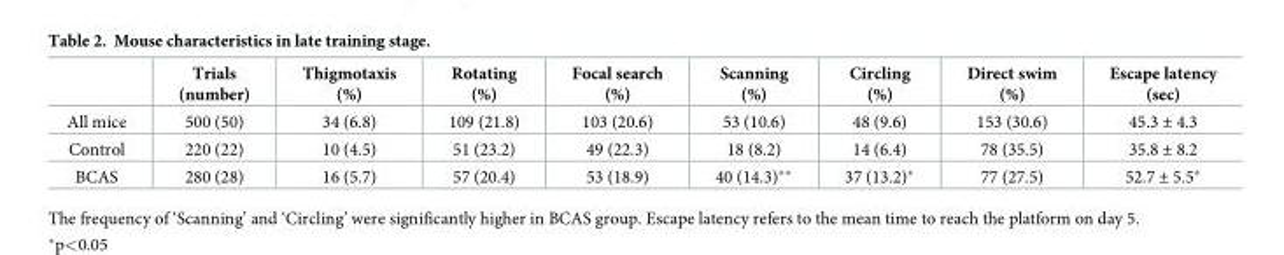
<table><thead><tr><td></td><td>Trials (number)</td><td>Thigmotaxis (%)</td><td>Rotating (%)</td><td>Focal search (%)</td><td>Scanning (%)</td><td>Circling (%)</td><td>Direct swim (%)</td><td>Escape latency (sec)</td></tr></thead><tbody><tr><td>All mice</td><td>500 (50)</td><td>34 (6.8)</td><td>109 (21.8)</td><td>103 (20.6)</td><td>53 (10.6)</td><td>48 (9.6)</td><td>153 (30.6)</td><td>45.3 ± 4.3</td></tr><tr><td>Control</td><td>220 (22)</td><td>10 (4.5)</td><td>51 (23.2)</td><td>49 (22.3)</td><td>18 (8.2)</td><td>14 (6.4)</td><td>78 (35.5)</td><td>35.8 ± 8.2</td></tr><tr><td>BCAS</td><td>280 (28)</td><td>16 (5.7)</td><td>57 (20.4)</td><td>53 (18.9)</td><td>40 (14.3)**</td><td>37 (13.2)*</td><td>77 (27.5)</td><td>52.7 ± 5.5*</td></tr></tbody></table>